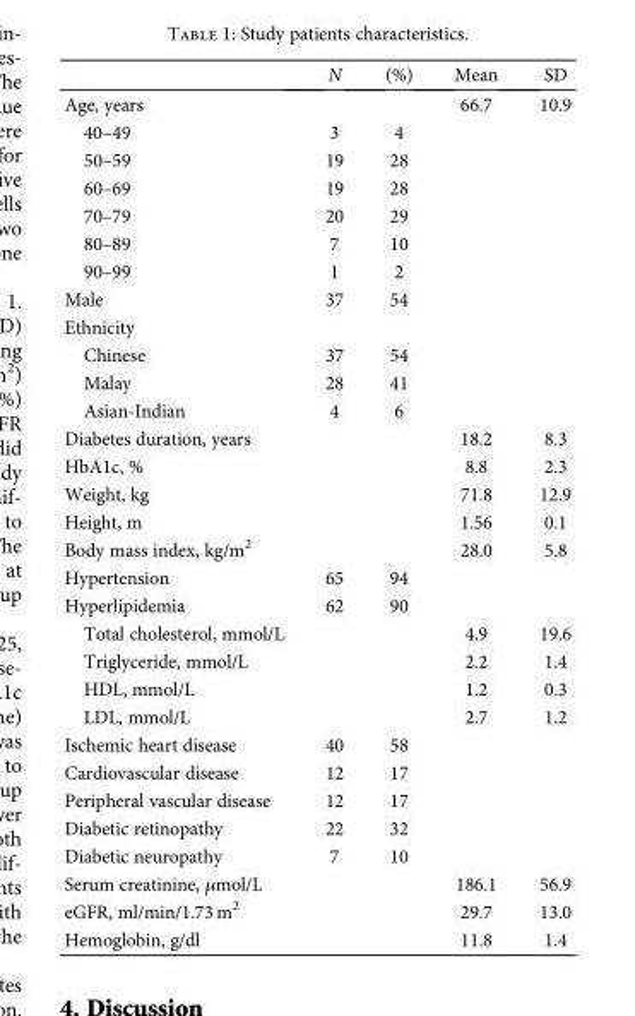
<table><thead><tr><td></td><td>N</td><td>(%)</td><td>Mean</td><td>SD</td></tr></thead><tbody><tr><td>Age, years</td><td></td><td></td><td>66.7</td><td>10.9</td></tr><tr><td>40–49</td><td>3</td><td>4</td><td></td><td></td></tr><tr><td>50–59</td><td>19</td><td>28</td><td></td><td></td></tr><tr><td>60–69</td><td>19</td><td>28</td><td></td><td></td></tr><tr><td>70–79</td><td>20</td><td>29</td><td></td><td></td></tr><tr><td>80–89</td><td>7</td><td>10</td><td></td><td></td></tr><tr><td>90–99</td><td>1</td><td>2</td><td></td><td></td></tr><tr><td>Male</td><td>37</td><td>54</td><td></td><td></td></tr><tr><td colspan="5">Ethnicity</td></tr><tr><td>Chinese</td><td>37</td><td>54</td><td></td><td></td></tr><tr><td>Malay</td><td>28</td><td>41</td><td></td><td></td></tr><tr><td>Asian-Indian</td><td>4</td><td>6</td><td></td><td></td></tr><tr><td>Diabetes duration, years</td><td></td><td></td><td>18.2</td><td>8.3</td></tr><tr><td>HbA1c, %</td><td></td><td></td><td>8.8</td><td>2.3</td></tr><tr><td>Weight, kg</td><td></td><td></td><td>71.8</td><td>12.9</td></tr><tr><td>Height, m</td><td></td><td></td><td>1.56</td><td>0.1</td></tr><tr><td>Body mass index, kg/m<sup>2</sup></td><td></td><td></td><td>28.0</td><td>5.8</td></tr><tr><td>Hypertension</td><td>65</td><td>94</td><td></td><td></td></tr><tr><td>Hyperlipidemia</td><td>62</td><td>90</td><td></td><td></td></tr><tr><td>Total cholesterol, mmol/L</td><td></td><td></td><td>4.9</td><td>19.6</td></tr><tr><td>Triglyceride, mmol/L</td><td></td><td></td><td>2.2</td><td>1.4</td></tr><tr><td>HDL, mmol/L</td><td></td><td></td><td>1.2</td><td>0.3</td></tr><tr><td>LDL, mmol/L</td><td></td><td></td><td>2.7</td><td>1.2</td></tr><tr><td>Ischemic heart disease</td><td>40</td><td>58</td><td></td><td></td></tr><tr><td>Cardiovascular disease</td><td>12</td><td>17</td><td></td><td></td></tr><tr><td>Peripheral vascular disease</td><td>12</td><td>17</td><td></td><td></td></tr><tr><td>Diabetic retinopathy</td><td>22</td><td>32</td><td></td><td></td></tr><tr><td>Diabetic neuropathy</td><td>7</td><td>10</td><td></td><td></td></tr><tr><td>Serum creatinine, μmol/L</td><td></td><td></td><td>186.1</td><td>56.9</td></tr><tr><td>eGFR, ml/min/1.73 m<sup>2</sup></td><td></td><td></td><td>29.7</td><td>13.0</td></tr><tr><td>Hemoglobin, g/dl</td><td></td><td></td><td>11.8</td><td>1.4</td></tr></tbody></table>